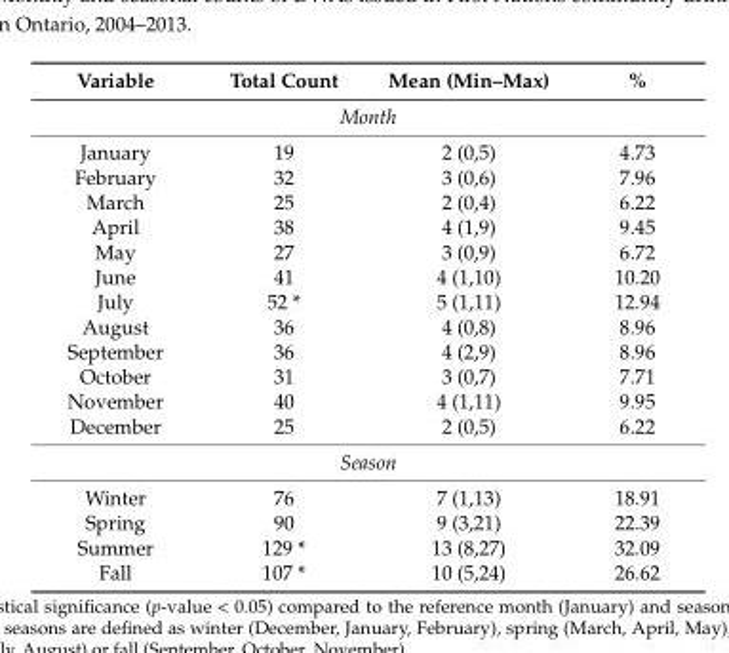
<table><thead><tr><td>Variable</td><td>Total Count</td><td>Mean (Min–Max)</td><td>%</td></tr></thead><tbody><tr><td colspan="4">Month</td></tr><tr><td>January</td><td>19</td><td>2 (0,5)</td><td>4.73</td></tr><tr><td>February</td><td>32</td><td>3 (0,6)</td><td>7.96</td></tr><tr><td>March</td><td>25</td><td>2 (0,4)</td><td>6.22</td></tr><tr><td>April</td><td>38</td><td>4 (1,9)</td><td>9.45</td></tr><tr><td>May</td><td>27</td><td>3 (0,9)</td><td>6.72</td></tr><tr><td>June</td><td>41</td><td>4 (1,10)</td><td>10.20</td></tr><tr><td>July</td><td>52 *</td><td>5 (1,11)</td><td>12.94</td></tr><tr><td>August</td><td>36</td><td>4 (0,8)</td><td>8.96</td></tr><tr><td>September</td><td>36</td><td>4 (2,9)</td><td>8.96</td></tr><tr><td>October</td><td>31</td><td>3 (0,7)</td><td>7.71</td></tr><tr><td>November</td><td>40</td><td>4 (1,11)</td><td>9.95</td></tr><tr><td>December</td><td>25</td><td>2 (0,5)</td><td>6.22</td></tr><tr><td colspan="4">Season</td></tr><tr><td>Winter</td><td>76</td><td>7 (1,13)</td><td>18.91</td></tr><tr><td>Spring</td><td>90</td><td>9 (3,21)</td><td>22.39</td></tr><tr><td>Summer</td><td>129 *</td><td>13 (8,27)</td><td>32.09</td></tr><tr><td>Fall</td><td>107 *</td><td>10 (5,24)</td><td>26.62</td></tr></tbody></table>